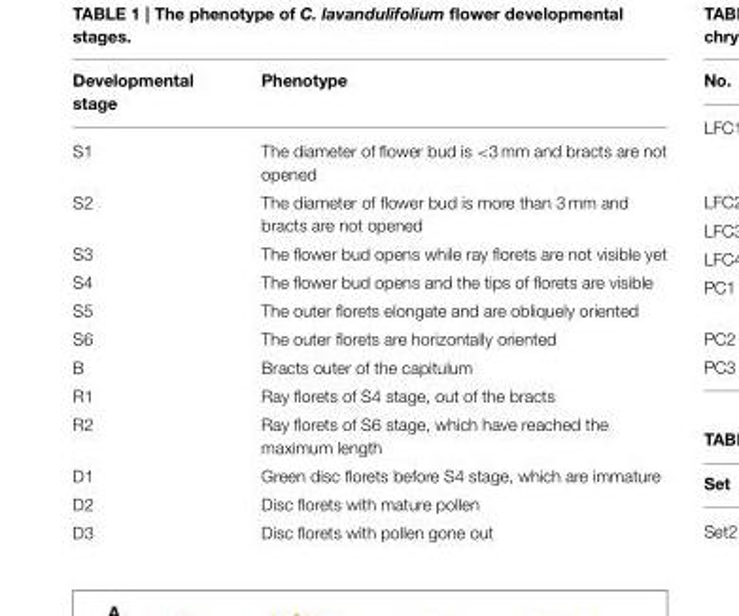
<table><thead><tr><td>Developmental stage</td><td>Phenotype</td></tr></thead><tbody><tr><td>S1</td><td>The diameter of flower bud is &lt;3 mm and bracts are not opened</td></tr><tr><td>S2</td><td>The diameter of flower bud is more than 3 mm and bracts are not opened</td></tr><tr><td>S3</td><td>The flower bud opens while ray florets are not visible yet</td></tr><tr><td>S4</td><td>The flower bud opens and the tips of florets are visible</td></tr><tr><td>S5</td><td>The outer florets elongate and are obliquely oriented</td></tr><tr><td>S6</td><td>The outer florets are horizontally oriented</td></tr><tr><td>B</td><td>Bracts outer of the capitulum</td></tr><tr><td>R1</td><td>Ray florets of S4 stage, out of the bracts</td></tr><tr><td>R2</td><td>Ray florets of S6 stage, which have reached the maximum length</td></tr><tr><td>D1</td><td>Green disc florets before S4 stage, which are immature</td></tr><tr><td>D2</td><td>Disc florets with mature pollen</td></tr><tr><td>D3</td><td>Disc florets with pollen gone out</td></tr></tbody></table>